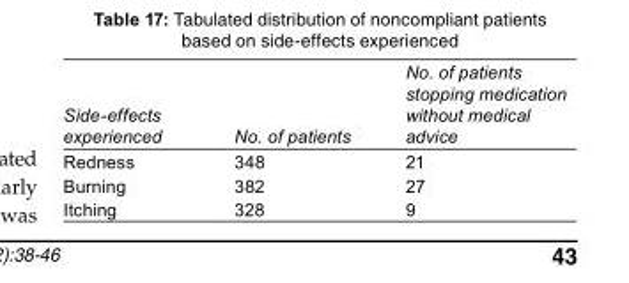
<table><tbody><tr><td>Side-effects experienced</td><td>No. of patients</td><td>No. of patients stopping medication without medical advice</td></tr><tr><td>Redness</td><td>348</td><td>21</td></tr><tr><td>Burning</td><td>382</td><td>27</td></tr><tr><td>Itching</td><td>328</td><td>9</td></tr></tbody></table>